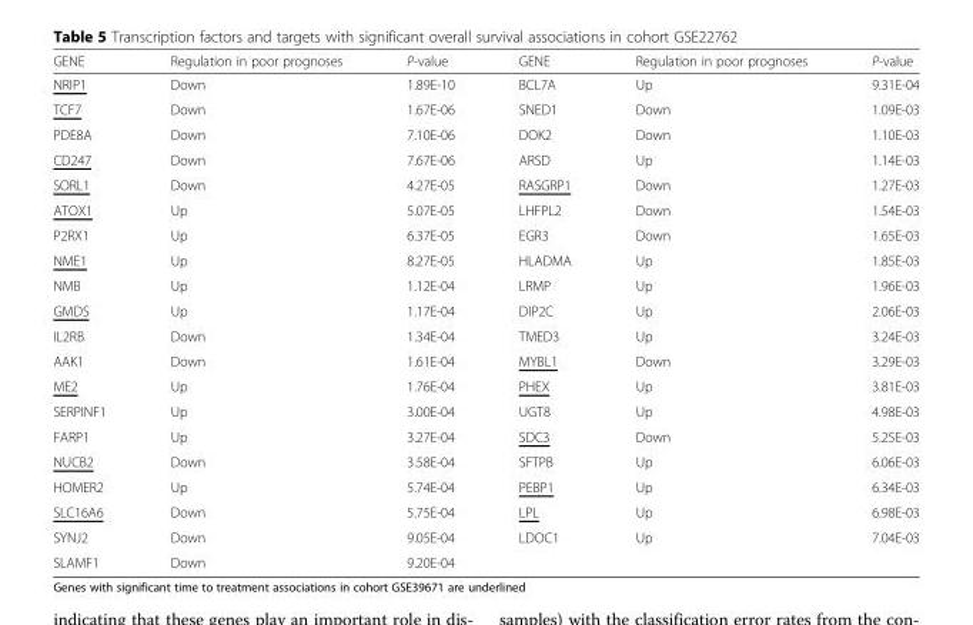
<table><thead><tr><td>GENE</td><td>Regulation in poor prognoses</td><td>P-value</td><td>GENE</td><td>Regulation in poor prognoses</td><td>P-value</td></tr></thead><tbody><tr><td>NRIP1</td><td>Down</td><td>1.89E-10</td><td>BCL7A</td><td>Up</td><td>9.31E-04</td></tr><tr><td>TCF7</td><td>Down</td><td>1.67E-06</td><td>SNED1</td><td>Down</td><td>1.09E-03</td></tr><tr><td>PDE8A</td><td>Down</td><td>7.10E-06</td><td>DOK2</td><td>Down</td><td>1.10E-03</td></tr><tr><td>CD247</td><td>Down</td><td>7.67E-06</td><td>ARSD</td><td>Up</td><td>1.14E-03</td></tr><tr><td>SORL1</td><td>Down</td><td>4.27E-05</td><td>RASGRP1</td><td>Down</td><td>1.27E-03</td></tr><tr><td>ATOX1</td><td>Up</td><td>5.07E-05</td><td>LHFPL2</td><td>Down</td><td>1.54E-03</td></tr><tr><td>P2RX1</td><td>Up</td><td>6.37E-05</td><td>EGR3</td><td>Down</td><td>1.65E-03</td></tr><tr><td>NME1</td><td>Up</td><td>8.27E-05</td><td>HLADMA</td><td>Up</td><td>1.85E-03</td></tr><tr><td>NMB</td><td>Up</td><td>1.12E-04</td><td>LRMP</td><td>Up</td><td>1.96E-03</td></tr><tr><td>GMDS</td><td>Up</td><td>1.17E-04</td><td>DIP2C</td><td>Up</td><td>2.06E-03</td></tr><tr><td>IL2RB</td><td>Down</td><td>1.34E-04</td><td>TMED3</td><td>Up</td><td>3.24E-03</td></tr><tr><td>AAK1</td><td>Down</td><td>1.61E-04</td><td>MYBL1</td><td>Down</td><td>3.29E-03</td></tr><tr><td>ME2</td><td>Up</td><td>1.76E-04</td><td>PHEX</td><td>Up</td><td>3.81E-03</td></tr><tr><td>SERPINF1</td><td>Up</td><td>3.00E-04</td><td>UGT8</td><td>Up</td><td>4.98E-03</td></tr><tr><td>FARP1</td><td>Up</td><td>3.27E-04</td><td>SDC3</td><td>Down</td><td>5.25E-03</td></tr><tr><td>NUCB2</td><td>Down</td><td>3.58E-04</td><td>SFTPB</td><td>Up</td><td>6.06E-03</td></tr><tr><td>HOMER2</td><td>Up</td><td>5.74E-04</td><td>PEBP1</td><td>Up</td><td>6.34E-03</td></tr><tr><td>SLC16A6</td><td>Down</td><td>5.75E-04</td><td>LPL</td><td>Up</td><td>6.98E-03</td></tr><tr><td>SYNJ2</td><td>Down</td><td>9.05E-04</td><td>LDOC1</td><td>Up</td><td>7.04E-03</td></tr><tr><td>SLAMF1</td><td>Down</td><td>9.20E-04</td><td></td><td></td><td></td></tr></tbody></table>